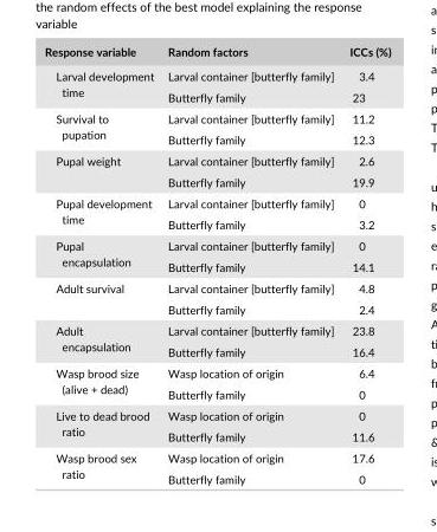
<table><thead><tr><td>Response variable</td><td>Random factors</td><td>ICCs (%)</td></tr></thead><tbody><tr><td rowspan="2">Larval development time</td><td>Larval container [butterfly family]</td><td>3.4</td></tr><tr><td>Butterfly family</td><td>23</td></tr><tr><td rowspan="2">Survival to pupation</td><td>Larval container [butterfly family]</td><td>11.2</td></tr><tr><td>Butterfly family</td><td>12.3</td></tr><tr><td rowspan="2">Pupal weight</td><td>Larval container [butterfly family]</td><td>2.6</td></tr><tr><td>Butterfly family</td><td>19.9</td></tr><tr><td rowspan="2">Pupal development time</td><td>Larval container [butterfly family]</td><td>0</td></tr><tr><td>Butterfly family</td><td>3.2</td></tr><tr><td rowspan="2">Pupal encapsulation</td><td>Larval container [butterfly family]</td><td>0</td></tr><tr><td>Butterfly family</td><td>14.1</td></tr><tr><td rowspan="2">Adult survival</td><td>Larval container [butterfly family]</td><td>4.8</td></tr><tr><td>Butterfly family</td><td>2.4</td></tr><tr><td rowspan="2">Adult encapsulation</td><td>Larval container [butterfly family]</td><td>23.8</td></tr><tr><td>Butterfly family</td><td>16.4</td></tr><tr><td rowspan="2">Wasp brood size (alive + dead)</td><td>Wasp location of origin</td><td>6.4</td></tr><tr><td>Butterfly family</td><td>0</td></tr><tr><td rowspan="2">Live to dead brood ratio</td><td>Wasp location of origin</td><td>0</td></tr><tr><td>Butterfly family</td><td>11.6</td></tr><tr><td rowspan="2">Wasp brood sex ratio</td><td>Wasp location of origin</td><td>17.6</td></tr><tr><td>Butterfly family</td><td>0</td></tr></tbody></table>